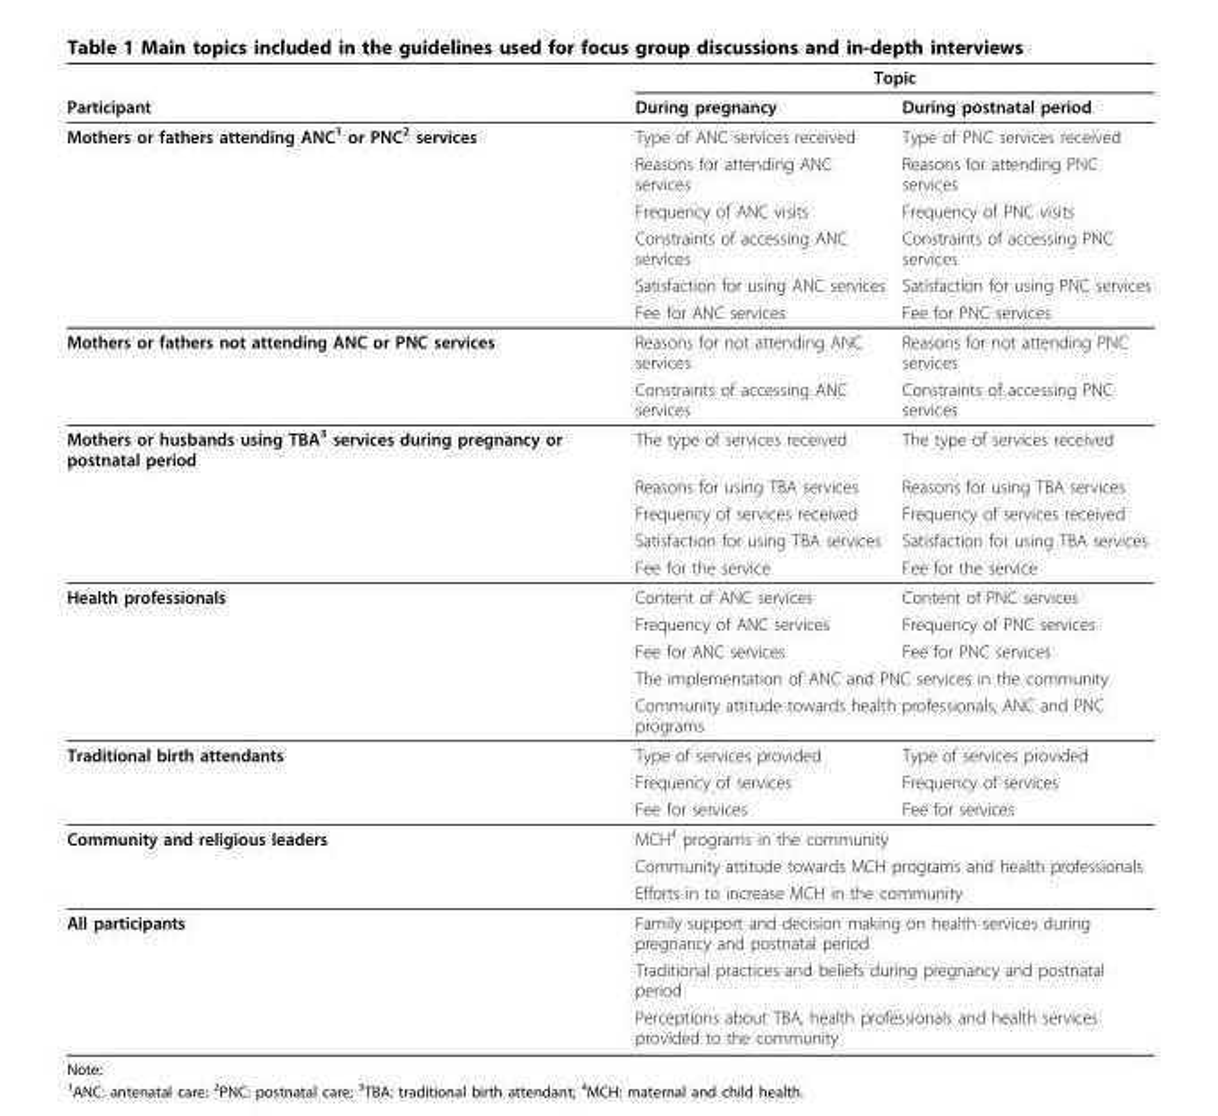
<table><thead><tr><td rowspan="2">Participant</td><td colspan="2">Topic</td></tr><tr><td>During pregnancy</td><td>During postnatal period</td></tr></thead><tbody><tr><td rowspan="6">Mothers or fathers attending ANC<sup>1</sup> or PNC<sup>2</sup> services</td><td>Type of ANC services received</td><td>Type of PNC services received</td></tr><tr><td>Reasons for attending ANC services</td><td>Reasons for attending PNC services</td></tr><tr><td>Frequency of ANC visits</td><td>Frequency of PNC visits</td></tr><tr><td>Constraints of accessing ANC services</td><td>Constraints of accessing PNC services</td></tr><tr><td>Satisfaction for using ANC services</td><td>Satisfaction for using PNC services</td></tr><tr><td>Fee for ANC services</td><td>Fee for PNC services</td></tr><tr><td rowspan="2">Mothers or fathers not attending ANC or PNC services</td><td>Reasons for not attending ANC services</td><td>Reasons for not attending PNC services</td></tr><tr><td>Constraints of accessing ANC services</td><td>Constraints of accessing PNC services</td></tr><tr><td rowspan="5">Mothers or husbands using TBA<sup>3</sup> services during pregnancy or postnatal period</td><td>The type of services received</td><td>The type of services received</td></tr><tr><td>Reasons for using TBA services</td><td>Reasons for using TBA services</td></tr><tr><td>Frequency of services received</td><td>Frequency of services received</td></tr><tr><td>Satisfaction for using TBA services</td><td>Satisfaction for using TBA services</td></tr><tr><td>Fee for the service</td><td>Fee for the service</td></tr><tr><td rowspan="5">Health professionals</td><td>Content of ANC services</td><td>Content of PNC services</td></tr><tr><td>Frequency of ANC services</td><td>Frequency of PNC services</td></tr><tr><td>Fee for ANC services</td><td>Fee for PNC services</td></tr><tr><td colspan="2">The implementation of ANC and PNC services in the community</td></tr><tr><td colspan="2">Community attitude towards health professionals, ANC and PNC programs</td></tr><tr><td rowspan="3">Traditional birth attendants</td><td>Type of services provided</td><td>Type of services provided</td></tr><tr><td>Frequency of services</td><td>Frequency of services</td></tr><tr><td>Fee for services</td><td>Fee for services</td></tr><tr><td rowspan="3">Community and religious leaders</td><td colspan="2">MCH<sup>4</sup> programs in the community</td></tr><tr><td colspan="2">Community attitude towards MCH programs and health professionals</td></tr><tr><td colspan="2">Efforts in to increase MCH in the community</td></tr><tr><td rowspan="3">All participants</td><td colspan="2">Family support and decision making on health services during pregnancy and postnatal period</td></tr><tr><td colspan="2">Traditional practices and beliefs during pregnancy and postnatal period</td></tr><tr><td colspan="2">Perceptions about TBA, health professionals and health services provided to the community</td></tr></tbody></table>